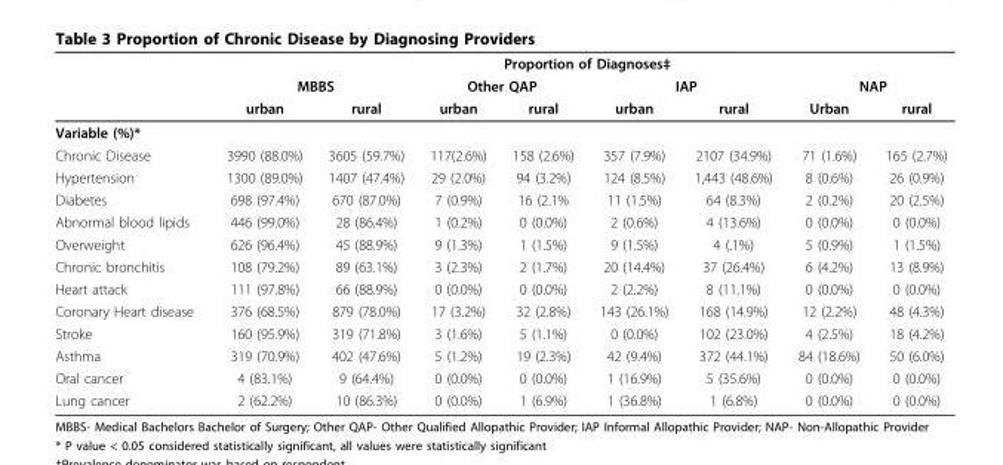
<table><thead><tr><td rowspan="3"></td><td colspan="8">Proportion of Diagnoses‡</td></tr><tr><td colspan="2">MBBS</td><td colspan="2">Other QAP</td><td colspan="2">IAP</td><td colspan="2">NAP</td></tr><tr><td>urban</td><td>rural</td><td>urban</td><td>rural</td><td>urban</td><td>rural</td><td>Urban</td><td>rural</td></tr></thead><tbody><tr><td colspan="9">Variable (%)*</td></tr><tr><td>Chronic Disease</td><td>3990 (88.0%)</td><td>3605 (59.7%)</td><td>117(2.6%)</td><td>158 (2.6%)</td><td>357 (7.9%)</td><td>2107 (34.9%)</td><td>71 (1.6%)</td><td>165 (2.7%)</td></tr><tr><td>Hypertension</td><td>1300 (89.0%)</td><td>1407 (47.4%)</td><td>29 (2.0%)</td><td>94 (3.2%)</td><td>124 (8.5%)</td><td>1,443 (48.6%)</td><td>8 (0.6%)</td><td>26 (0.9%)</td></tr><tr><td>Diabetes</td><td>698 (97.4%)</td><td>670 (87.0%)</td><td>7 (0.9%)</td><td>16 (2.1%</td><td>11 (1.5%)</td><td>64 (8.3%)</td><td>2 (0.2%)</td><td>20 (2.5%)</td></tr><tr><td>Abnormal blood lipids</td><td>446 (99.0%)</td><td>28 (86.4%)</td><td>1 (0.2%)</td><td>0 (0.0%)</td><td>2 (0.6%)</td><td>4 (13.6%)</td><td>0 (0.0%)</td><td>0 (0.0%)</td></tr><tr><td>Overweight</td><td>626 (96.4%)</td><td>45 (88.9%)</td><td>9 (1.3%)</td><td>1 (1.5%)</td><td>9 (1.5%)</td><td>4 (.1%)</td><td>5 (0.9%)</td><td>1 (1.5%)</td></tr><tr><td>Chronic bronchitis</td><td>108 (79.2%)</td><td>89 (63.1%)</td><td>3 (2.3%)</td><td>2 (1.7%)</td><td>20 (14.4%)</td><td>37 (26.4%)</td><td>6 (4.2%)</td><td>13 (8.9%)</td></tr><tr><td>Heart attack</td><td>111 (97.8%)</td><td>66 (88.9%)</td><td>0 (0.0%)</td><td>0 (0.0%)</td><td>2 (2.2%)</td><td>8 (11.1%)</td><td>0 (0.0%)</td><td>0 (0.0%)</td></tr><tr><td>Coronary Heart disease</td><td>376 (68.5%)</td><td>879 (78.0%)</td><td>17 (3.2%)</td><td>32 (2.8%)</td><td>143 (26.1%)</td><td>168 (14.9%)</td><td>12 (2.2%)</td><td>48 (4.3%)</td></tr><tr><td>Stroke</td><td>160 (95.9%)</td><td>319 (71.8%)</td><td>3 (1.6%)</td><td>5 (1.1%)</td><td>0 (0.0%)</td><td>102 (23.0%)</td><td>4 (2.5%)</td><td>18 (4.2%)</td></tr><tr><td>Asthma</td><td>319 (70.9%)</td><td>402 (47.6%)</td><td>5 (1.2%)</td><td>19 (2.3%)</td><td>42 (9.4%)</td><td>372 (44.1%)</td><td>84 (18.6%)</td><td>50 (6.0%)</td></tr><tr><td>Oral cancer</td><td>4 (83.1%)</td><td>9 (64.4%)</td><td>0 (0.0%)</td><td>0 (0.0%)</td><td>1 (16.9%)</td><td>5 (35.6%)</td><td>0 (0.0%)</td><td>0 (0.0%)</td></tr><tr><td>Lung cancer</td><td>2 (62.2%)</td><td>10 (86.3%)</td><td>0 (0.0%)</td><td>1 (6.9%)</td><td>1 (36.8%)</td><td>1 (6.8%)</td><td>0 (0.0%)</td><td>0 (0.0%)</td></tr></tbody></table>